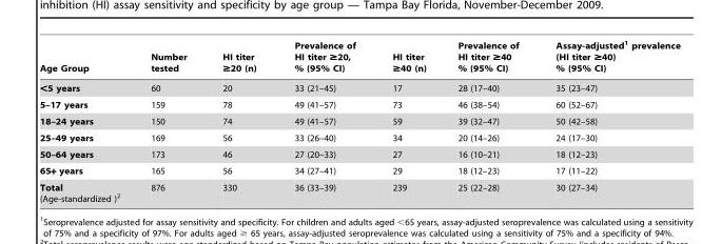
<table><thead><tr><td>Age Group</td><td>Number tested</td><td>HI titer ≥20 (n)</td><td>Prevalence of HI titer ≥20, % (95% CI)</td><td>HI titer ≥40 (n)</td><td>Prevalence of HI titer ≥40 % (95% CI)</td><td>Assay-adjusted<sup>1</sup> prevalence (HI titer ≥40) % (95% CI)</td></tr></thead><tbody><tr><td>&lt;5 years</td><td>60</td><td>20</td><td>33 (21–45)</td><td>17</td><td>28 (17–40)</td><td>35 (23–47)</td></tr><tr><td>5–17 years</td><td>159</td><td>78</td><td>49 (41–57)</td><td>73</td><td>46 (38–54)</td><td>60 (52–67)</td></tr><tr><td>18–24 years</td><td>150</td><td>74</td><td>49 (41–57)</td><td>59</td><td>39 (32–47)</td><td>50 (42–58)</td></tr><tr><td>25–49 years</td><td>169</td><td>56</td><td>33 (26–40)</td><td>34</td><td>20 (14–26)</td><td>24 (17–30)</td></tr><tr><td>50–64 years</td><td>173</td><td>46</td><td>27 (20–33)</td><td>27</td><td>16 (10–21)</td><td>18 (12–23)</td></tr><tr><td>65+ years</td><td>165</td><td>56</td><td>34 (27–41)</td><td>29</td><td>18 (12–23)</td><td>17 (11–22)</td></tr><tr><td>Total (Age-standardized )<sup>2</sup></td><td>876</td><td>330</td><td>36 (33–39)</td><td>239</td><td>25 (22–28)</td><td>30 (27–34)</td></tr></tbody></table>